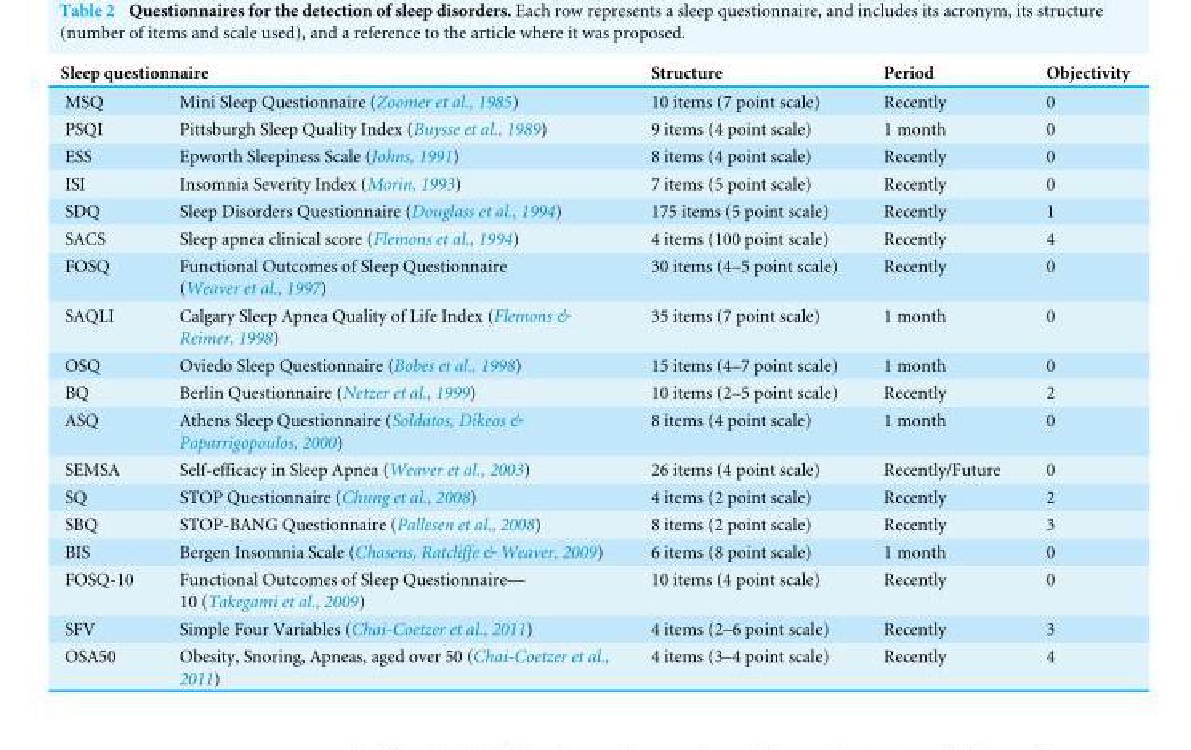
<table><thead><tr><td colspan="2">Sleep questionnaire</td><td rowspan="2">Structure 10 items (7 point scale)</td><td rowspan="2">Period Recently</td><td rowspan="2">Objectivity 0</td></tr><tr><td>MSQ</td><td>Mini Sleep Questionnaire (Zoomer et al., 1985)</td></tr></thead><tbody><tr><td>PSQI</td><td>Pittsburgh Sleep Quality Index (Buysse et al., 1989)</td><td>9 items (4 point scale)</td><td>1 month</td><td>0</td></tr><tr><td>ESS</td><td>Epworth Sleepiness Scale (Johns, 1991)</td><td>8 items (4 point scale)</td><td>Recently</td><td>0</td></tr><tr><td>ISI</td><td>Insomnia Severity Index (Morin, 1993)</td><td>7 items (5 point scale)</td><td>Recently</td><td>0</td></tr><tr><td>SDQ</td><td>Sleep Disorders Questionnaire (Douglass et al., 1994)</td><td>175 items (5 point scale)</td><td>Recently</td><td>1</td></tr><tr><td>SACS</td><td>Sleep apnea clinical score (Flemons et al., 1994)</td><td>4 items (100 point scale)</td><td>Recently</td><td>4</td></tr><tr><td>FOSQ</td><td>Functional Outcomes of Sleep Questionnaire (Weaver et al., 1997)</td><td>30 items (4–5 point scale)</td><td>Recently</td><td>0</td></tr><tr><td>SAQLI</td><td>Calgary Sleep Apnea Quality of Life Index (Flemons &amp; Reimer, 1998)</td><td>35 items (7 point scale)</td><td>1 month</td><td>0</td></tr><tr><td>OSQ</td><td>Oviedo Sleep Questionnaire (Bobes et al., 1998)</td><td>15 items (4–7 point scale)</td><td>1 month</td><td>0</td></tr><tr><td>BQ</td><td>Berlin Questionnaire (Netzer et al., 1999)</td><td>10 items (2–5 point scale)</td><td>Recently</td><td>2</td></tr><tr><td>ASQ</td><td>Athens Sleep Questionnaire (Soldatos, Dikeos &amp; Paparrigopoulos, 2000)</td><td>8 items (4 point scale)</td><td>1 month</td><td>0</td></tr><tr><td>SEMSA</td><td>Self-efficacy in Sleep Apnea (Weaver et al., 2003)</td><td>26 items (4 point scale)</td><td>Recently/Future</td><td>0</td></tr><tr><td>SQ</td><td>STOP Questionnaire (Chung et al., 2008)</td><td>4 items (2 point scale)</td><td>Recently</td><td>2</td></tr><tr><td>SBQ</td><td>STOP-BANG Questionnaire (Pallesen et al., 2008)</td><td>8 items (2 point scale)</td><td>Recently</td><td>3</td></tr><tr><td>BIS</td><td>Bergen Insomnia Scale (Chasens, Ratcliffe &amp; Weaver, 2009)</td><td>6 items (8 point scale)</td><td>1 month</td><td>0</td></tr><tr><td>FOSQ-10</td><td>Functional Outcomes of Sleep Questionnaire— 10 (Takegami et al., 2009)</td><td>10 items (4 point scale)</td><td>Recently</td><td>0</td></tr><tr><td>SFV</td><td>Simple Four Variables (Chai-Coetzer et al., 2011)</td><td>4 items (2–6 point scale)</td><td>Recently</td><td>3</td></tr><tr><td>OSA50</td><td>Obesity, Snoring, Apneas, aged over 50 (Chai-Coetzer et al., 2011)</td><td>4 items (3–4 point scale)</td><td>Recently</td><td>4</td></tr></tbody></table>